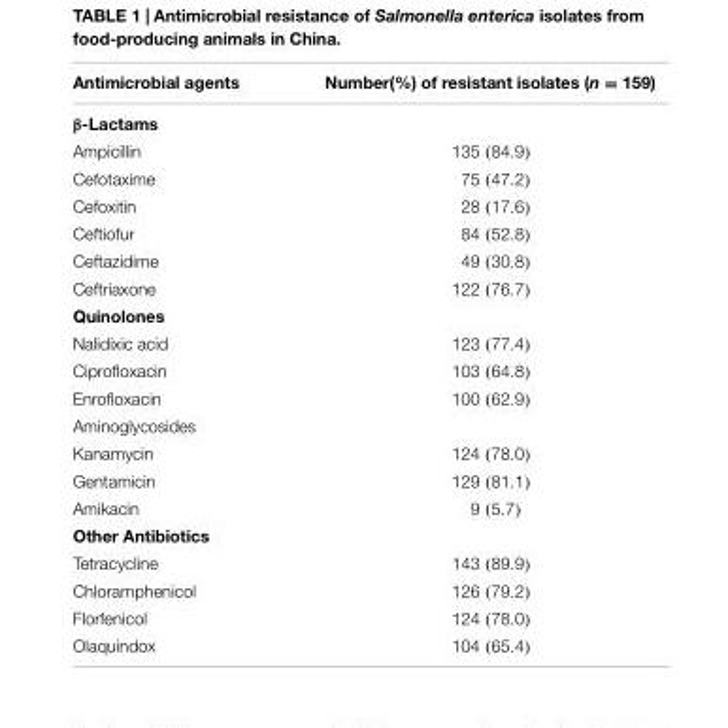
<table><thead><tr><td>Antimicrobial agents</td><td>Number(%) of resistant isolates (n = 159)</td></tr></thead><tbody><tr><td colspan="2">β-Lactams</td></tr><tr><td>Ampicillin</td><td>135 (84.9)</td></tr><tr><td>Cefotaxime</td><td>75 (47.2)</td></tr><tr><td>Cefoxitin</td><td>28 (17.6)</td></tr><tr><td>Ceftiofur</td><td>84 (52.8)</td></tr><tr><td>Ceftazidime</td><td>49 (30.8)</td></tr><tr><td>Ceftriaxone</td><td>122 (76.7)</td></tr><tr><td colspan="2">Quinolones</td></tr><tr><td>Nalidixic acid</td><td>123 (77.4)</td></tr><tr><td>Ciprofloxacin</td><td>103 (64.8)</td></tr><tr><td>Enrofloxacin</td><td>100 (62.9)</td></tr><tr><td colspan="2">Aminoglycosides</td></tr><tr><td>Kanamycin</td><td>124 (78.0)</td></tr><tr><td>Gentamicin</td><td>129 (81.1)</td></tr><tr><td>Amikacin</td><td>9 (5.7)</td></tr><tr><td colspan="2">Other Antibiotics</td></tr><tr><td>Tetracycline</td><td>143 (89.9)</td></tr><tr><td>Chloramphenicol</td><td>126 (79.2)</td></tr><tr><td>Florfenicol</td><td>124 (78.0)</td></tr><tr><td>Olaquindox</td><td>104 (65.4)</td></tr></tbody></table>